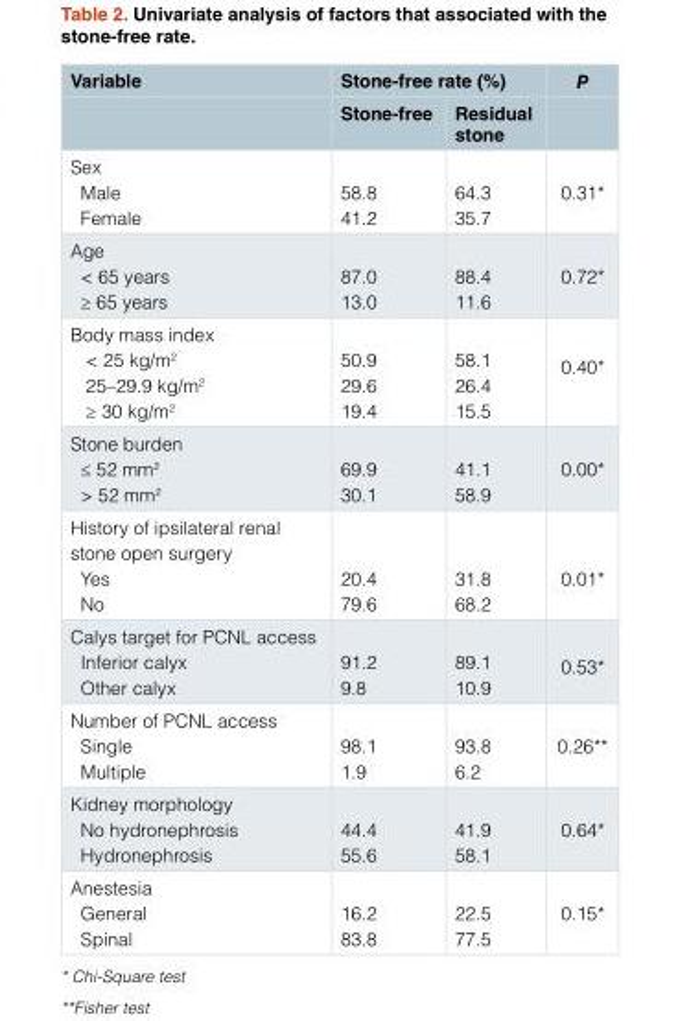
<table><thead><tr><td rowspan="2">Variable</td><td colspan="2">Stone-free rate (%)</td><td rowspan="2">P</td></tr><tr><td>Stone-free</td><td>Residual stone</td></tr></thead><tbody><tr><td>Sex Male Female</td><td>58.8 41.2</td><td>64.3 35.7</td><td>0.31*</td></tr><tr><td>Age &lt; 65 years ≥ 65 years</td><td>87.0 13.0</td><td>88.4 11.6</td><td>0.72*</td></tr><tr><td>Body mass index &lt; 25 kg/m<sup>2</sup> 25–29.9 kg/m<sup>2</sup> ≥ 30 kg/m<sup>2</sup></td><td>50.9 29.6 19.4</td><td>58.1 26.4 15.5</td><td>0.40*</td></tr><tr><td>Stone burden ≤ 52 mm<sup>2</sup> &gt; 52 mm<sup>2</sup></td><td>69.9 30.1</td><td>41.1 58.9</td><td>0.00*</td></tr><tr><td>History of ipsilateral renal stone open surgery Yes No</td><td>20.4 79.6</td><td>31.8 68.2</td><td>0.01*</td></tr><tr><td>Calys target for PCNL access Inferior calyx Other calyx</td><td>91.2 9.8</td><td>89.1 10.9</td><td>0.53*</td></tr><tr><td>Number of PCNL access Single Multiple</td><td>98.1 1.9</td><td>93.8 6.2</td><td>0.26**</td></tr><tr><td>Kidney morphology No hydronephrosis Hydronephrosis</td><td>44.4 55.6</td><td>41.9 58.1</td><td>0.64*</td></tr><tr><td>Anestesia General Spinal</td><td>16.2 83.8</td><td>22.5 77.5</td><td>0.15*</td></tr></tbody></table>